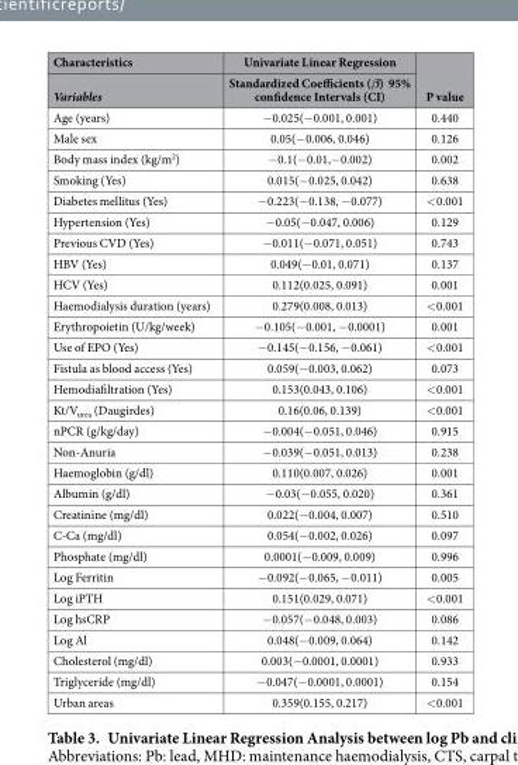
<table><thead><tr><td rowspan="2">Characteristics Variables</td><td rowspan="2">Univariate Linear Regression Standardized Coefficients (β) 95% confidence Intervals (CI)</td><td rowspan="2">P value</td></tr><tr></tr></thead><tbody><tr><td>Age (years)</td><td>−0.025(−0.001, 0.001)</td><td>0.440</td></tr><tr><td>Male sex</td><td>0.05(−0.006, 0.046)</td><td>0.126</td></tr><tr><td>Body mass index (kg/m<sup>2</sup>)</td><td>−0.1(−0.01,−0.002)</td><td>0.002</td></tr><tr><td>Smoking (Yes)</td><td>0.015(−0.025, 0.042)</td><td>0.638</td></tr><tr><td>Diabetes mellitus (Yes)</td><td>−0.223(−0.138, −0.077)</td><td>&lt;0.001</td></tr><tr><td>Hypertension (Yes)</td><td>−0.05(−0.047, 0.006)</td><td>0.129</td></tr><tr><td>Previous CVD (Yes)</td><td>−0.011(−0.071, 0.051)</td><td>0.743</td></tr><tr><td>HBV (Yes)</td><td>0.049(−0.01, 0.071)</td><td>0.137</td></tr><tr><td>HCV (Yes)</td><td>0.112(0.025, 0.091)</td><td>0.001</td></tr><tr><td>Haemodialysis duration (years)</td><td>0.279(0.008, 0.013)</td><td>&lt;0.001</td></tr><tr><td>Erythropoietin (U/kg/week)</td><td>−0.105(−0.001, −0.0001)</td><td>0.001</td></tr><tr><td>Use of EPO (Yes)</td><td>−0.145(−0.156, −0.061)</td><td>&lt;0.001</td></tr><tr><td>Fistula as blood access (Yes)</td><td>0.059(−0.003, 0.062)</td><td>0.073</td></tr><tr><td>Hemodiafiltration (Yes)</td><td>0.153(0.043, 0.106)</td><td>&lt;0.001</td></tr><tr><td>Kt/V<sub>urea</sub> (Daugirdes)</td><td>0.16(0.06, 0.139)</td><td>&lt;0.001</td></tr><tr><td>nPCR (g/kg/day)</td><td>−0.004(−0.051, 0.046)</td><td>0.915</td></tr><tr><td>Non-Anuria</td><td>−0.039(−0.051, 0.013)</td><td>0.238</td></tr><tr><td>Haemoglobin (g/dl)</td><td>0.110(0.007, 0.026)</td><td>0.001</td></tr><tr><td>Albumin (g/dl)</td><td>−0.03(−0.055, 0.020)</td><td>0.361</td></tr><tr><td>Creatinine (mg/dl)</td><td>0.022(−0.004, 0.007)</td><td>0.510</td></tr><tr><td>C-Ca (mg/dl)</td><td>0.054(−0.002, 0.026)</td><td>0.097</td></tr><tr><td>Phosphate (mg/dl)</td><td>0.0001(−0.009, 0.009)</td><td>0.996</td></tr><tr><td>Log Ferritin</td><td>−0.092(−0.065, −0.011)</td><td>0.005</td></tr><tr><td>Log iPTH</td><td>0.151(0.029, 0.071)</td><td>&lt;0.001</td></tr><tr><td>Log hsCRP</td><td>−0.057(−0.048, 0.003)</td><td>0.086</td></tr><tr><td>Log Al</td><td>0.048(−0.009, 0.064)</td><td>0.142</td></tr><tr><td>Cholesterol (mg/dl)</td><td>0.003(−0.0001, 0.0001)</td><td>0.933</td></tr><tr><td>Triglyceride (mg/dl)</td><td>−0.047(−0.0001, 0.0001)</td><td>0.154</td></tr><tr><td>Urban areas</td><td>0.359(0.155, 0.217)</td><td>&lt;0.001</td></tr></tbody></table>